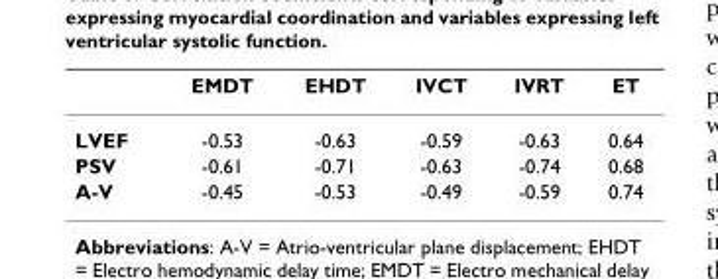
<table><thead><tr><td></td><td>EMDT</td><td>EHDT</td><td>IVCT</td><td>IVRT</td><td>ET</td></tr></thead><tbody><tr><td>LVEF</td><td>-0.53</td><td>-0.63</td><td>-0.59</td><td>-0.63</td><td>0.64</td></tr><tr><td>PSV</td><td>-0.61</td><td>-0.71</td><td>-0.63</td><td>-0.74</td><td>0.68</td></tr><tr><td>A-V</td><td>-0.45</td><td>-0.53</td><td>-0.49</td><td>-0.59</td><td>0.74</td></tr></tbody></table>